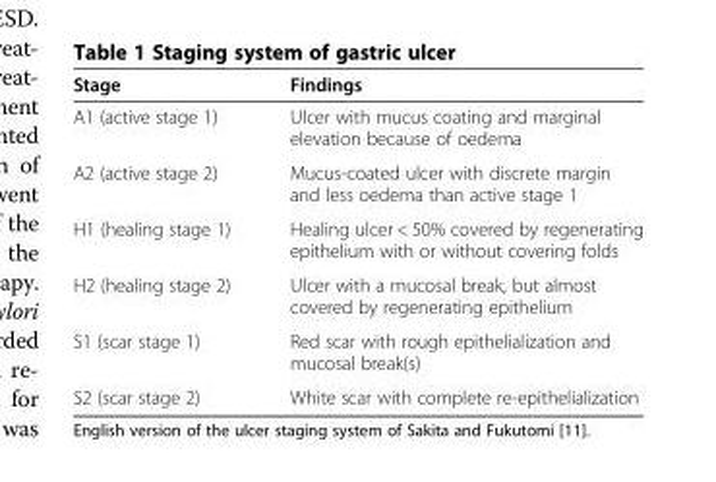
<table><thead><tr><td>Stage</td><td>Findings</td></tr></thead><tbody><tr><td>A1 (active stage 1)</td><td>Ulcer with mucus coating and marginal elevation because of oedema</td></tr><tr><td>A2 (active stage 2)</td><td>Mucus-coated ulcer with discrete margin and less oedema than active stage 1</td></tr><tr><td>H1 (healing stage 1)</td><td>Healing ulcer &lt; 50% covered by regenerating epithelium with or without covering folds</td></tr><tr><td>H2 (healing stage 2)</td><td>Ulcer with a mucosal break, but almost covered by regenerating epithelium</td></tr><tr><td>S1 (scar stage 1)</td><td>Red scar with rough epithelialization and mucosal break(s)</td></tr><tr><td>S2 (scar stage 2)</td><td>White scar with complete re-epithelialization</td></tr></tbody></table>